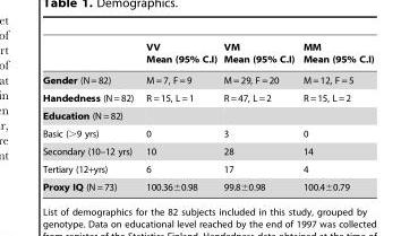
<table><thead><tr><td></td><td>VV Mean (95% C.I)</td><td>VM Mean (95% C.I)</td><td>MM Mean (95% C.I)</td></tr></thead><tbody><tr><td>Gender (N= 82)</td><td>M=7, F= 9</td><td>M=29, F =20</td><td>M=12, F= 5</td></tr><tr><td>Handedness (N=82)</td><td>R=15, L=1</td><td>R=47, L=2</td><td>R=15, L=2</td></tr><tr><td colspan="4">Education (N=82)</td></tr><tr><td>Basic (&gt;9 yrs)</td><td>0</td><td>3</td><td>0</td></tr><tr><td>Secondary (10–12 yrs)</td><td>10</td><td>28</td><td>14</td></tr><tr><td>Tertiary (12+yrs)</td><td>6</td><td>17</td><td>4</td></tr><tr><td>Proxy IQ (N=73)</td><td>100.36±0.98</td><td>99.8±0.98</td><td>100.4±0.79</td></tr></tbody></table>